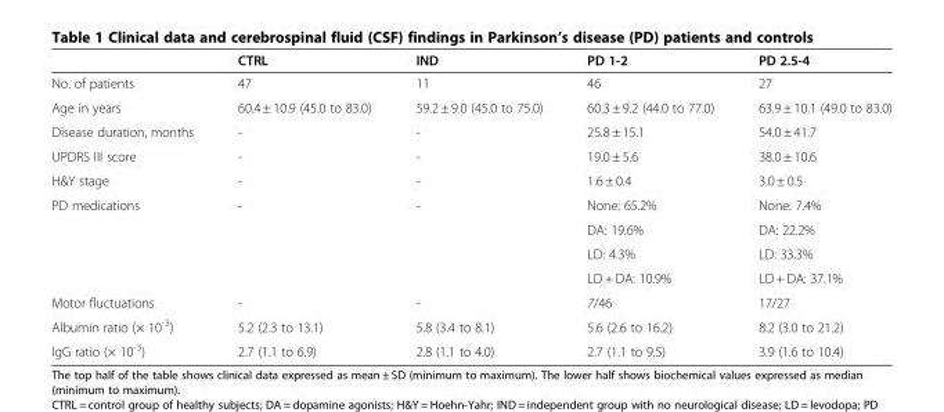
<table><thead><tr><td></td><td>CTRL</td><td>IND</td><td>PD 1-2</td><td>PD 2.5-4</td></tr></thead><tbody><tr><td>No. of patients</td><td>47</td><td>11</td><td>46</td><td>27</td></tr><tr><td>Age in years</td><td>60.4 ± 10.9 (45.0 to 83.0)</td><td>59.2 ± 9.0 (45.0 to 75.0)</td><td>60.3 ± 9.2 (44.0 to 77.0)</td><td>63.9 ± 10.1 (49.0 to 83.0)</td></tr><tr><td>Disease duration, months</td><td>-</td><td>-</td><td>25.8 ± 15.1</td><td>54.0 ± 41.7</td></tr><tr><td>UPDRS III score</td><td>-</td><td>-</td><td>19.0 ± 5.6</td><td>38.0 ± 10.6</td></tr><tr><td>H&amp;Y stage</td><td>-</td><td>-</td><td>1.6 ± 0.4</td><td>3.0 ± 0.5</td></tr><tr><td rowspan="4">PD medications</td><td>-</td><td>-</td><td>None: 65.2%</td><td>None: 7.4%</td></tr><tr><td></td><td></td><td>DA: 19.6%</td><td>DA: 22.2%</td></tr><tr><td></td><td></td><td>LD: 4.3%</td><td>LD: 33.3%</td></tr><tr><td></td><td></td><td>LD + DA: 10.9%</td><td>LD + DA: 37.1%</td></tr><tr><td>Motor fluctuations</td><td>-</td><td>-</td><td>7/46</td><td>17/27</td></tr><tr><td>Albumin ratio (× 10<sup>-3</sup>)</td><td>5.2 (2.3 to 13.1)</td><td>5.8 (3.4 to 8.1)</td><td>5.6 (2.6 to 16.2)</td><td>8.2 (3.0 to 21.2)</td></tr><tr><td>IgG ratio (× 10<sup>-3</sup>)</td><td>2.7 (1.1 to 6.9)</td><td>2.8 (1.1 to 4.0)</td><td>2.7 (1.1 to 9.5)</td><td>3.9 (1.6 to 10.4)</td></tr></tbody></table>